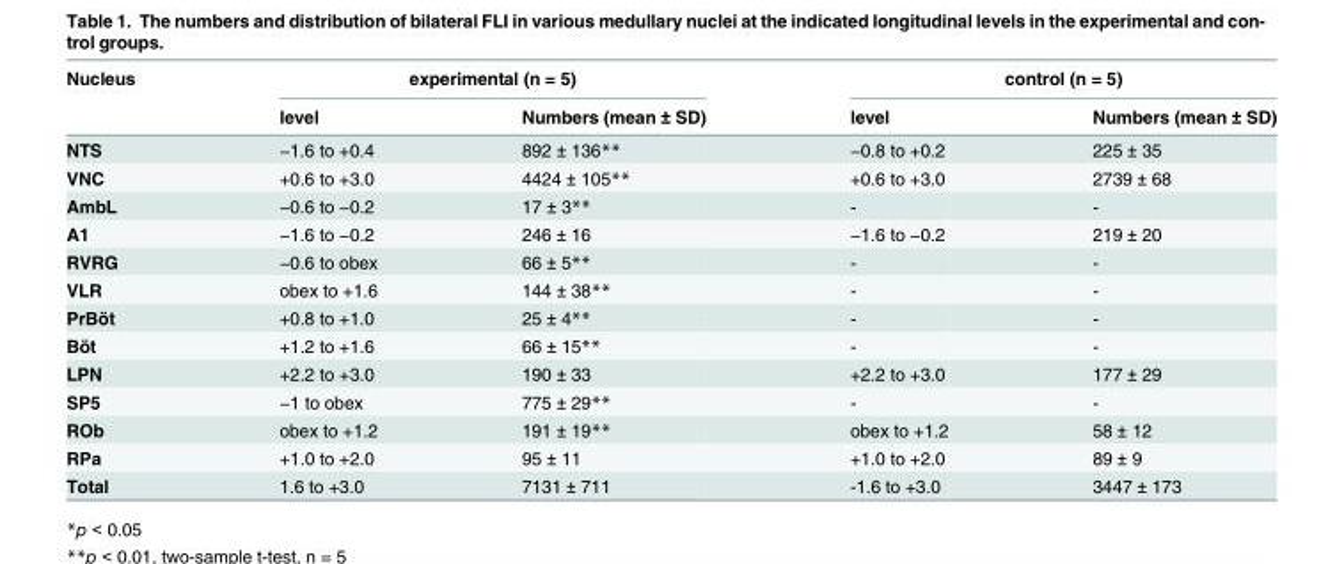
<table><thead><tr><td rowspan="2">Nucleus</td><td colspan="2">experimental (n = 5)</td><td colspan="2">control (n = 5)</td></tr><tr><td>level</td><td>Numbers (mean ± SD)</td><td>level</td><td>Numbers (mean ± SD)</td></tr></thead><tbody><tr><td>NTS</td><td>−1.6 to +0.4</td><td>892 ± 136**</td><td>−0.8 to +0.2</td><td>225 ± 35</td></tr><tr><td>VNC</td><td>+0.6 to +3.0</td><td>4424 ± 105**</td><td>+0.6 to +3.0</td><td>2739 ± 68</td></tr><tr><td>AmbL</td><td>−0.6 to −0.2</td><td>17 ± 3**</td><td>-</td><td>-</td></tr><tr><td>A1</td><td>−1.6 to −0.2</td><td>246 ± 16</td><td>−1.6 to −0.2</td><td>219 ± 20</td></tr><tr><td>RVRG</td><td>−0.6 to obex</td><td>66 ± 5**</td><td>-</td><td>-</td></tr><tr><td>VLR</td><td>obex to +1.6</td><td>144 ± 38**</td><td>-</td><td>-</td></tr><tr><td>PrBöt</td><td>+0.8 to +1.0</td><td>25 ± 4**</td><td>-</td><td>-</td></tr><tr><td>Böt</td><td>+1.2 to +1.6</td><td>66 ± 15**</td><td>-</td><td>-</td></tr><tr><td>LPN</td><td>+2.2 to +3.0</td><td>190 ± 33</td><td>+2.2 to +3.0</td><td>177 ± 29</td></tr><tr><td>SP5</td><td>−1 to obex</td><td>775 ± 29**</td><td>-</td><td>-</td></tr><tr><td>ROb</td><td>obex to +1.2</td><td>191 ± 19**</td><td>obex to +1.2</td><td>58 ± 12</td></tr><tr><td>RPa</td><td>+1.0 to +2.0</td><td>95 ± 11</td><td>+1.0 to +2.0</td><td>89 ± 9</td></tr><tr><td>Total</td><td>1.6 to +3.0</td><td>7131 ± 711</td><td>-1.6 to +3.0</td><td>3447 ± 173</td></tr></tbody></table>